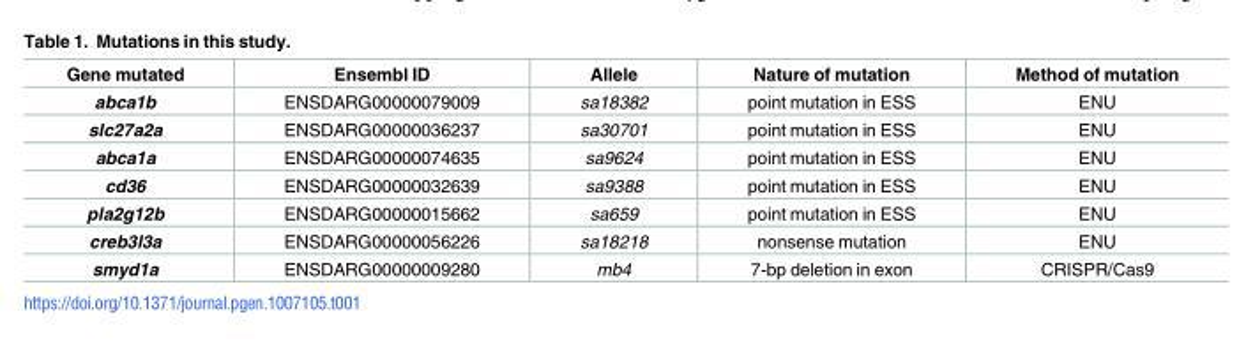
<table><thead><tr><td>Gene mutated</td><td>Ensembl ID</td><td>Allele</td><td>Nature of mutation</td><td>Method of mutation</td></tr></thead><tbody><tr><td>abca1b</td><td>ENSDARG00000079009</td><td>sa18382</td><td>point mutation in ESS</td><td>ENU</td></tr><tr><td>slc27a2a</td><td>ENSDARG00000036237</td><td>sa30701</td><td>point mutation in ESS</td><td>ENU</td></tr><tr><td>abca1a</td><td>ENSDARG00000074635</td><td>sa9624</td><td>point mutation in ESS</td><td>ENU</td></tr><tr><td>cd36</td><td>ENSDARG00000032639</td><td>sa9388</td><td>point mutation in ESS</td><td>ENU</td></tr><tr><td>pla2g12b</td><td>ENSDARG00000015662</td><td>sa659</td><td>point mutation in ESS</td><td>ENU</td></tr><tr><td>creb3l3a</td><td>ENSDARG00000056226</td><td>sa18218</td><td>nonsense mutation</td><td>ENU</td></tr><tr><td>smyd1a</td><td>ENSDARG00000009280</td><td>mb4</td><td>7-bp deletion in exon</td><td>CRISPR/Cas9</td></tr></tbody></table>